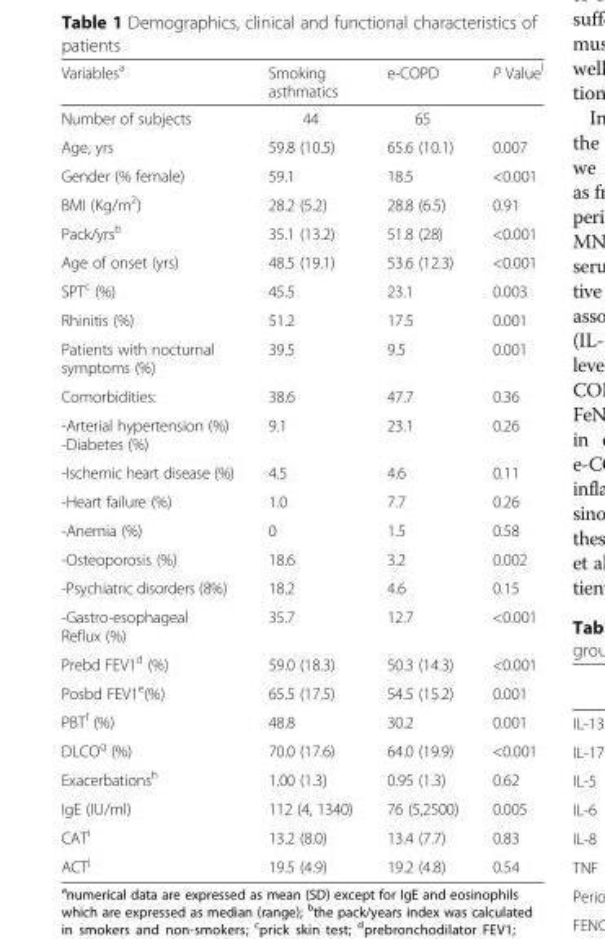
<table><thead><tr><td>Variables<sup>a</sup></td><td>Smoking asthmatics</td><td>e-COPD</td><td>P Value<sup>l</sup></td></tr></thead><tbody><tr><td>Number of subjects</td><td>44</td><td>65</td><td></td></tr><tr><td>Age, yrs</td><td>59.8 (10.5)</td><td>65.6 (10.1)</td><td>0.007</td></tr><tr><td>Gender (% female)</td><td>59.1</td><td>18.5</td><td>&lt;0.001</td></tr><tr><td>BMI (Kg/m<sup>2</sup>)</td><td>28.2 (5.2)</td><td>28.8 (6.5)</td><td>0.91</td></tr><tr><td>Pack/yrs<sup>b</sup></td><td>35.1 (13.2)</td><td>51.8 (28)</td><td>&lt;0.001</td></tr><tr><td>Age of onset (yrs)</td><td>48.5 (19.1)</td><td>53.6 (12.3)</td><td>&lt;0.001</td></tr><tr><td>SPT<sup>c</sup> (%)</td><td>45.5</td><td>23.1</td><td>0.003</td></tr><tr><td>Rhinitis (%)</td><td>51.2</td><td>17.5</td><td>0.001</td></tr><tr><td>Patients with nocturnal symptoms (%)</td><td>39.5</td><td>9.5</td><td>0.001</td></tr><tr><td>Comorbidities:</td><td>38.6</td><td>47.7</td><td>0.36</td></tr><tr><td>-Arterial hypertension (%) -Diabetes (%)</td><td>9.1</td><td>23.1</td><td>0.26</td></tr><tr><td>-Ischemic heart disease (%)</td><td>4.5</td><td>4.6</td><td>0.11</td></tr><tr><td>-Heart failure (%)</td><td>1.0</td><td>7.7</td><td>0.26</td></tr><tr><td>-Anemia (%)</td><td>0</td><td>1.5</td><td>0.58</td></tr><tr><td>-Osteoporosis (%)</td><td>18.6</td><td>3.2</td><td>0.002</td></tr><tr><td>-Psychiatric disorders (8%)</td><td>18.2</td><td>4.6</td><td>0.15</td></tr><tr><td>-Gastro-esophageal Reflux (%)</td><td>35.7</td><td>12.7</td><td>&lt;0.001</td></tr><tr><td>Prebd FEV1<sup>d</sup> (%)</td><td>59.0 (18.3)</td><td>50.3 (14.3)</td><td>&lt;0.001</td></tr><tr><td>Posbd FEV1<sup>e</sup>(%)</td><td>65.5 (17.5)</td><td>54.5 (15.2)</td><td>0.001</td></tr><tr><td>PBT<sup>f</sup> (%)</td><td>48.8</td><td>30.2</td><td>0.001</td></tr><tr><td>DLCO<sup>g</sup> (%)</td><td>70.0 (17.6)</td><td>64.0 (19.9)</td><td>&lt;0.001</td></tr><tr><td>Exacerbations<sup>h</sup></td><td>1.00 (1.3)</td><td>0.95 (1.3)</td><td>0.62</td></tr><tr><td>IgE (IU/ml)</td><td>112 (4, 1340)</td><td>76 (5,2500)</td><td>0.005</td></tr><tr><td>CAT<sup>i</sup></td><td>13.2 (8.0)</td><td>13.4 (7.7)</td><td>0.83</td></tr><tr><td>ACT<sup>j</sup></td><td>19.5 (4.9)</td><td>19.2 (4.8)</td><td>0.54</td></tr></tbody></table>